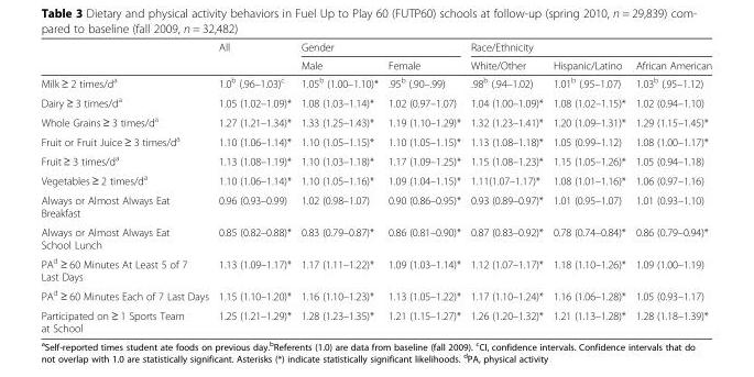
<table><thead><tr><td rowspan="2"></td><td rowspan="2">All</td><td colspan="2">Gender</td><td colspan="3">Race/Ethnicity</td></tr><tr><td>Male</td><td>Female</td><td>White/Other</td><td>Hispanic/Latino</td><td>African American</td></tr></thead><tbody><tr><td>Milk ≥ 2 times/d<sup>a</sup></td><td>1.0<sup>b</sup> (.96–1.03)<sup>c</sup></td><td>1.05<sup>b</sup> (1.00–1.10)*</td><td>.95<sup>b</sup> (.90–.99)</td><td>.98<sup>b</sup> (.94–1.02)</td><td>1.01<sup>b</sup> (.95–1.07)</td><td>1.03<sup>b</sup> (.95–1.12)</td></tr><tr><td>Dairy ≥ 3 times/d<sup>a</sup></td><td>1.05 (1.02–1.09)*</td><td>1.08 (1.03–1.14)*</td><td>1.02 (0.97–1.07)</td><td>1.04 (1.00–1.09)*</td><td>1.08 (1.02–1.15)*</td><td>1.02 (0.94–1.10)</td></tr><tr><td>Whole Grains ≥ 3 times/d<sup>a</sup></td><td>1.27 (1.21–1.34)*</td><td>1.33 (1.25–1.43)*</td><td>1.19 (1.10–1.29)*</td><td>1.32 (1.23–1.41)*</td><td>1.20 (1.09–1.31)*</td><td>1.29 (1.15–1.45)*</td></tr><tr><td>Fruit or Fruit Juice ≥ 3 times/d<sup>a</sup></td><td>1.10 (1.06–1.14)*</td><td>1.10 (1.05–1.15)*</td><td>1.10 (1.05–1.15)*</td><td>1.13 (1.08–1.18)*</td><td>1.05 (0.99–1.12)</td><td>1.08 (1.00–1.17)*</td></tr><tr><td>Fruit ≥ 3 times/d<sup>a</sup></td><td>1.13 (1.08–1.19)*</td><td>1.10 (1.03–1.18)*</td><td>1.17 (1.09–1.25)*</td><td>1.15 (1.08–1.23)*</td><td>1.15 (1.05–1.26)*</td><td>1.05 (0.94–1.18)</td></tr><tr><td>Vegetables ≥ 2 times/d<sup>a</sup></td><td>1.10 (1.06–1.14)*</td><td>1.10 (1.05–1.16)*</td><td>1.09 (1.04–1.15)*</td><td>1.11(1.07–1.17)*</td><td>1.08 (1.01–1.16)*</td><td>1.06 (0.97–1.16)</td></tr><tr><td>Always or Almost Always Eat Breakfast</td><td>0.96 (0.93–0.99)</td><td>1.02 (0.98–1.07)</td><td>0.90 (0.86–0.95)*</td><td>0.93 (0.89–0.97)*</td><td>1.01 (0.95–1.07)</td><td>1.01 (0.93–1.10)</td></tr><tr><td>Always or Almost Always Eat School Lunch</td><td>0.85 (0.82–0.88)*</td><td>0.83 (0.79–0.87)*</td><td>0.86 (0.81–0.90)*</td><td>0.87 (0.83–0.92)*</td><td>0.78 (0.74–0.84)*</td><td>0.86 (0.79–0.94)*</td></tr><tr><td>PA<sup>d</sup> ≥ 60 Minutes At Least 5 of 7 Last Days</td><td>1.13 (1.09–1.17)*</td><td>1.17 (1.11–1.22)*</td><td>1.09 (1.03–1.14)*</td><td>1.12 (1.07–1.17)*</td><td>1.18 (1.10–1.26)*</td><td>1.09 (1.00–1.19)</td></tr><tr><td>PA<sup>d</sup> ≥ 60 Minutes Each of 7 Last Days</td><td>1.15 (1.10–1.20)*</td><td>1.16 (1.10–1.23)*</td><td>1.13 (1.05–1.22)*</td><td>1.17 (1.10–1.24)*</td><td>1.16 (1.06–1.28)*</td><td>1.05 (0.93–1.17)</td></tr><tr><td>Participated on ≥ 1 Sports Team at School</td><td>1.25 (1.21–1.29)*</td><td>1.28 (1.23–1.35)*</td><td>1.21 (1.15–1.27)*</td><td>1.26 (1.20–1.32)*</td><td>1.21 (1.13–1.28)*</td><td>1.28 (1.18–1.39)*</td></tr></tbody></table>